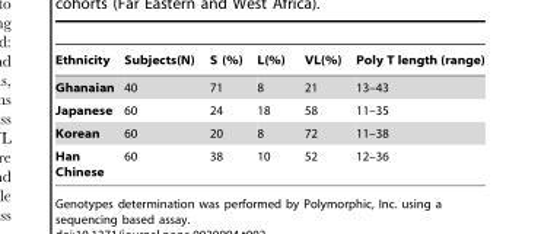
<table><thead><tr><td>Ethnicity</td><td>Subjects(N)</td><td>S (%)</td><td>L(%)</td><td>VL(%)</td><td>Poly T length (range)</td></tr></thead><tbody><tr><td>Ghanaian</td><td>40</td><td>71</td><td>8</td><td>21</td><td>13–43</td></tr><tr><td>Japanese</td><td>60</td><td>24</td><td>18</td><td>58</td><td>11–35</td></tr><tr><td>Korean</td><td>60</td><td>20</td><td>8</td><td>72</td><td>11–38</td></tr><tr><td>Han Chinese</td><td>60</td><td>38</td><td>10</td><td>52</td><td>12–36</td></tr></tbody></table>